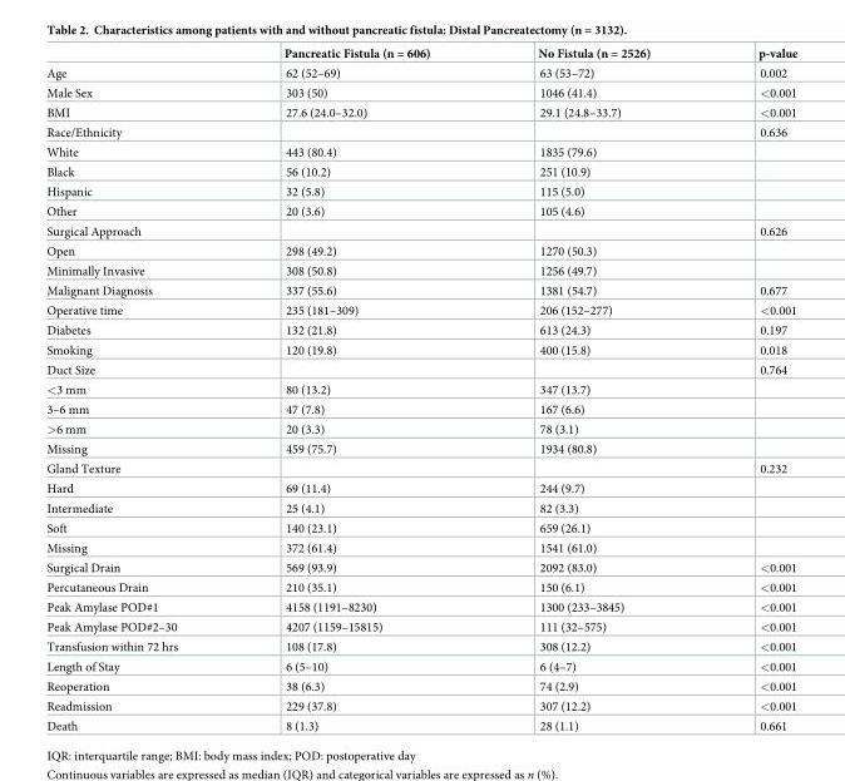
<table><thead><tr><td></td><td>Pancreatic Fistula (n = 606)</td><td>No Fistula (n = 2526)</td><td>p-value</td></tr></thead><tbody><tr><td>Age</td><td>62 (52–69)</td><td>63 (53–72)</td><td>0.002</td></tr><tr><td>Male Sex</td><td>303 (50)</td><td>1046 (41.4)</td><td>&lt;0.001</td></tr><tr><td>BMI</td><td>27.6 (24.0–32.0)</td><td>29.1 (24.8–33.7)</td><td>&lt;0.001</td></tr><tr><td>Race/Ethnicity</td><td></td><td></td><td>0.636</td></tr><tr><td>White</td><td>443 (80.4)</td><td>1835 (79.6)</td><td></td></tr><tr><td>Black</td><td>56 (10.2)</td><td>251 (10.9)</td><td></td></tr><tr><td>Hispanic</td><td>32 (5.8)</td><td>115 (5.0)</td><td></td></tr><tr><td>Other</td><td>20 (3.6)</td><td>105 (4.6)</td><td></td></tr><tr><td>Surgical Approach</td><td></td><td></td><td>0.626</td></tr><tr><td>Open</td><td>298 (49.2)</td><td>1270 (50.3)</td><td></td></tr><tr><td>Minimally Invasive</td><td>308 (50.8)</td><td>1256 (49.7)</td><td></td></tr><tr><td>Malignant Diagnosis</td><td>337 (55.6)</td><td>1381 (54.7)</td><td>0.677</td></tr><tr><td>Operative time</td><td>235 (181–309)</td><td>206 (152–277)</td><td>&lt;0.001</td></tr><tr><td>Diabetes</td><td>132 (21.8)</td><td>613 (24.3)</td><td>0.197</td></tr><tr><td>Smoking</td><td>120 (19.8)</td><td>400 (15.8)</td><td>0.018</td></tr><tr><td>Duct Size</td><td></td><td></td><td>0.764</td></tr><tr><td>&lt;3 mm</td><td>80 (13.2)</td><td>347 (13.7)</td><td></td></tr><tr><td>3–6 mm</td><td>47 (7.8)</td><td>167 (6.6)</td><td></td></tr><tr><td>&gt;6 mm</td><td>20 (3.3)</td><td>78 (3.1)</td><td></td></tr><tr><td>Missing</td><td>459 (75.7)</td><td>1934 (80.8)</td><td></td></tr><tr><td>Gland Texture</td><td></td><td></td><td>0.232</td></tr><tr><td>Hard</td><td>69 (11.4)</td><td>244 (9.7)</td><td></td></tr><tr><td>Intermediate</td><td>25 (4.1)</td><td>82 (3.3)</td><td></td></tr><tr><td>Soft</td><td>140 (23.1)</td><td>659 (26.1)</td><td></td></tr><tr><td>Missing</td><td>372 (61.4)</td><td>1541 (61.0)</td><td></td></tr><tr><td>Surgical Drain</td><td>569 (93.9)</td><td>2092 (83.0)</td><td>&lt;0.001</td></tr><tr><td>Percutaneous Drain</td><td>210 (35.1)</td><td>150 (6.1)</td><td>&lt;0.001</td></tr><tr><td>Peak Amylase POD#1</td><td>4158 (1191–8230)</td><td>1300 (233–3845)</td><td>&lt;0.001</td></tr><tr><td>Peak Amylase POD#2–30</td><td>4207 (1159–15815)</td><td>111 (32–575)</td><td>&lt;0.001</td></tr><tr><td>Transfusion within 72 hrs</td><td>108 (17.8)</td><td>308 (12.2)</td><td>&lt;0.001</td></tr><tr><td>Length of Stay</td><td>6 (5–10)</td><td>6 (4–7)</td><td>&lt;0.001</td></tr><tr><td>Reoperation</td><td>38 (6.3)</td><td>74 (2.9)</td><td>&lt;0.001</td></tr><tr><td>Readmission</td><td>229 (37.8)</td><td>307 (12.2)</td><td>&lt;0.001</td></tr><tr><td>Death</td><td>8 (1.3)</td><td>28 (1.1)</td><td>0.661</td></tr></tbody></table>